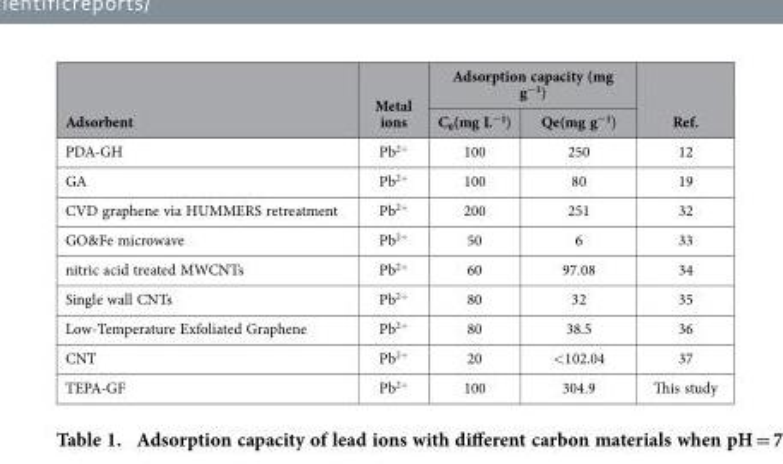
<table><thead><tr><td rowspan="2">Adsorbent</td><td rowspan="2">Metal ions</td><td colspan="2">Adsorption capacity (mg g<sup>−1</sup>)</td><td rowspan="2">Ref.</td></tr><tr><td>C<sub>0</sub>(mg L<sup>−1</sup>)</td><td>Qe(mg g<sup>−1</sup>)</td></tr></thead><tbody><tr><td>PDA-GH</td><td>Pb<sup>2+</sup></td><td>100</td><td>250</td><td>12</td></tr><tr><td>GA</td><td>Pb<sup>2+</sup></td><td>100</td><td>80</td><td>19</td></tr><tr><td>CVD graphene via HUMMERS retreatment</td><td>Pb<sup>2+</sup></td><td>200</td><td>251</td><td>32</td></tr><tr><td>GO&amp;Fe microwave</td><td>Pb<sup>2+</sup></td><td>50</td><td>6</td><td>33</td></tr><tr><td>nitric acid treated MWCNTs</td><td>Pb<sup>2+</sup></td><td>60</td><td>97.08</td><td>34</td></tr><tr><td>Single wall CNTs</td><td>Pb<sup>2+</sup></td><td>80</td><td>32</td><td>35</td></tr><tr><td>Low-Temperature Exfoliated Graphene</td><td>Pb<sup>2+</sup></td><td>80</td><td>38.5</td><td>36</td></tr><tr><td>CNT</td><td>Pb<sup>2+</sup></td><td>20</td><td>&lt;102.04</td><td>37</td></tr><tr><td>TEPA-GF</td><td>Pb<sup>2+</sup></td><td>100</td><td>304.9</td><td>This study</td></tr></tbody></table>